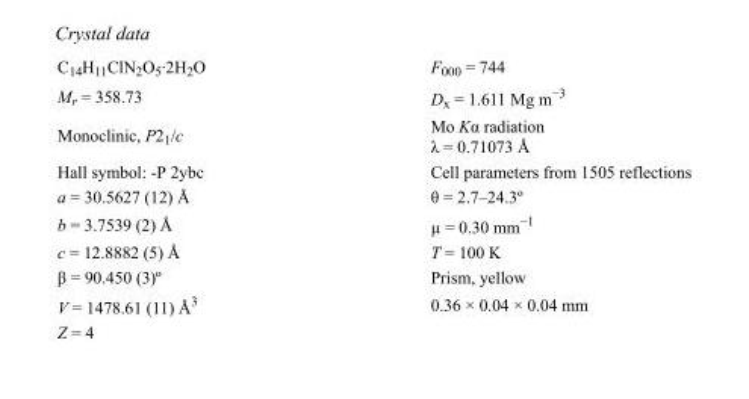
<table><tbody><tr><td>C<sub>14</sub>H<sub>11</sub>ClN<sub>2</sub>O<sub>5</sub>·2H<sub>2</sub>O</td><td>F000 = 744</td></tr><tr><td>M<sub>r</sub> = 358.73</td><td>D<sub>x</sub> = 1.611 Mg m<sup>−3</sup></td></tr><tr><td>Monoclinic, P2<sub>1</sub>/c</td><td>Mo Kα radiation λ = 0.71073 Å</td></tr><tr><td>Hall symbol: -P 2ybc</td><td>Cell parameters from 1505 reflections</td></tr><tr><td>a = 30.5627 (12) Å</td><td>θ = 2.7–24.3º</td></tr><tr><td>b = 3.7539 (2) Å</td><td>µ = 0.30 mm<sup>−1</sup></td></tr><tr><td>c = 12.8882 (5) Å</td><td>T = 100 K</td></tr><tr><td>β = 90.450 (3)º</td><td>Prism, yellow</td></tr><tr><td>V = 1478.61 (11) Å<sup>3</sup></td><td>0.36 × 0.04 × 0.04 mm</td></tr><tr><td>Z = 4</td><td></td></tr></tbody></table>